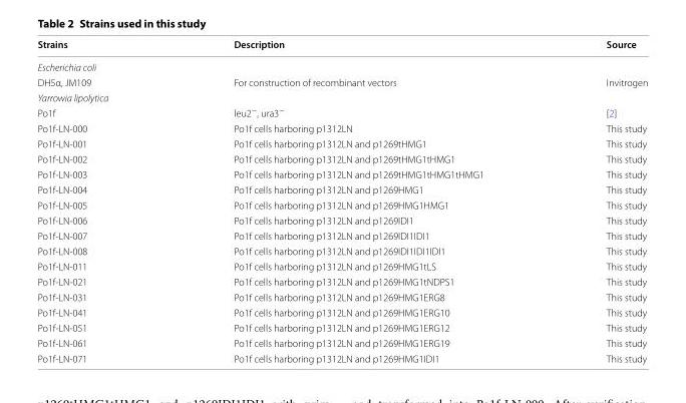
<table><thead><tr><td>Strains</td><td>Description</td><td>Source</td></tr></thead><tbody><tr><td colspan="3">Escherichia coli</td></tr><tr><td>DH5α, JM109</td><td>For construction of recombinant vectors</td><td>Invitrogen</td></tr><tr><td colspan="3">Yarrowia lipolytica</td></tr><tr><td>Po1f</td><td>leu2<sup>−</sup>, ura3<sup>−</sup></td><td>[2]</td></tr><tr><td>Po1f‑LN‑000</td><td>Po1f cells harboring p1312LN</td><td>This study</td></tr><tr><td>Po1f‑LN‑001</td><td>Po1f cells harboring p1312LN and p1269tHMG1</td><td>This study</td></tr><tr><td>Po1f‑LN‑002</td><td>Po1f cells harboring p1312LN and p1269tHMG1tHMG1</td><td>This study</td></tr><tr><td>Po1f‑LN‑003</td><td>Po1f cells harboring p1312LN and p1269tHMG1tHMG1tHMG1</td><td>This study</td></tr><tr><td>Po1f‑LN‑004</td><td>Po1f cells harboring p1312LN and p1269HMG1</td><td>This study</td></tr><tr><td>Po1f‑LN‑005</td><td>Po1f cells harboring p1312LN and p1269HMG1HMG1</td><td>This study</td></tr><tr><td>Po1f‑LN‑006</td><td>Po1f cells harboring p1312LN and p1269IDI1</td><td>This study</td></tr><tr><td>Po1f‑LN‑007</td><td>Po1f cells harboring p1312LN and p1269IDI1IDI1</td><td>This study</td></tr><tr><td>Po1f‑LN‑008</td><td>Po1f cells harboring p1312LN and p1269IDI1IDI1IDI1</td><td>This study</td></tr><tr><td>Po1f‑LN‑011</td><td>Po1f cells harboring p1312LN and p1269HMG1tLS</td><td>This study</td></tr><tr><td>Po1f‑LN‑021</td><td>Po1f cells harboring p1312LN and p1269HMG1tNDPS1</td><td>This study</td></tr><tr><td>Po1f‑LN‑031</td><td>Po1f cells harboring p1312LN and p1269HMG1ERG8</td><td>This study</td></tr><tr><td>Po1f‑LN‑041</td><td>Po1f cells harboring p1312LN and p1269HMG1ERG10</td><td>This study</td></tr><tr><td>Po1f‑LN‑051</td><td>Po1f cells harboring p1312LN and p1269HMG1ERG12</td><td>This study</td></tr><tr><td>Po1f‑LN‑061</td><td>Po1f cells harboring p1312LN and p1269HMG1ERG19</td><td>This study</td></tr><tr><td>Po1f‑LN‑071</td><td>Po1f cells harboring p1312LN and p1269HMG1IDI1</td><td>This study</td></tr></tbody></table>